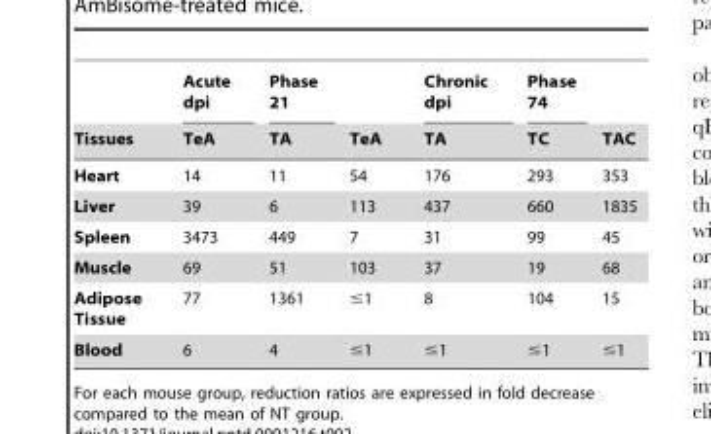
<table><thead><tr><td rowspan="2">Tissues</td><td rowspan="2">Acute dpi TeA</td><td rowspan="2">Phase 21 TA</td><td rowspan="2">TeA</td><td rowspan="2">Chronic dpi TA</td><td rowspan="2">Phase 74 TC</td><td rowspan="2">TAC</td></tr><tr></tr></thead><tbody><tr><td>Heart</td><td>14</td><td>11</td><td>54</td><td>176</td><td>293</td><td>353</td></tr><tr><td>Liver</td><td>39</td><td>6</td><td>113</td><td>437</td><td>660</td><td>1835</td></tr><tr><td>Spleen</td><td>3473</td><td>449</td><td>7</td><td>31</td><td>99</td><td>45</td></tr><tr><td>Muscle</td><td>69</td><td>51</td><td>103</td><td>37</td><td>19</td><td>68</td></tr><tr><td>Adipose Tissue</td><td>77</td><td>1361</td><td>≤1</td><td>8</td><td>104</td><td>15</td></tr><tr><td>Blood</td><td>6</td><td>4</td><td>≤1</td><td>≤1</td><td>≤1</td><td>≤1</td></tr></tbody></table>